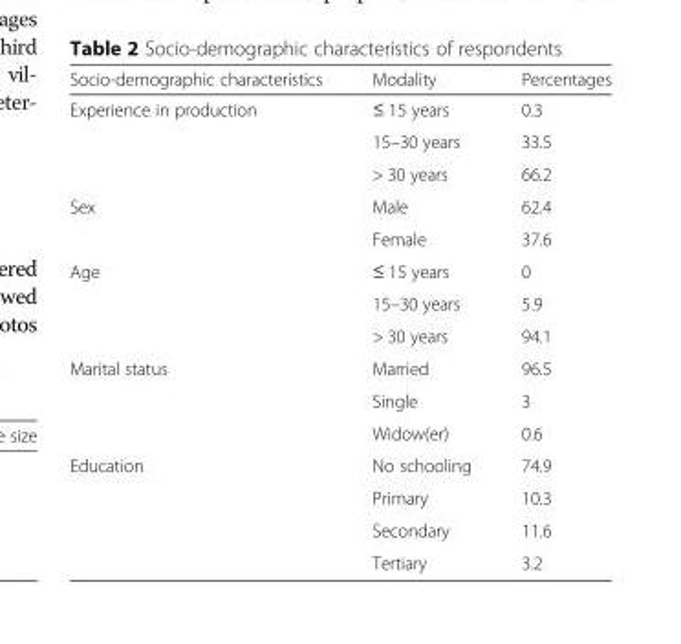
<table><thead><tr><td>Socio-demographic characteristics</td><td>Modality</td><td>Percentages</td></tr></thead><tbody><tr><td rowspan="3">Experience in production</td><td>≤ 15 years</td><td>0.3</td></tr><tr><td>15–30 years</td><td>33.5</td></tr><tr><td>&gt; 30 years</td><td>66.2</td></tr><tr><td rowspan="2">Sex</td><td>Male</td><td>62.4</td></tr><tr><td>Female</td><td>37.6</td></tr><tr><td rowspan="3">Age</td><td>≤ 15 years</td><td>0</td></tr><tr><td>15–30 years</td><td>5.9</td></tr><tr><td>&gt; 30 years</td><td>94.1</td></tr><tr><td rowspan="3">Marital status</td><td>Married</td><td>96.5</td></tr><tr><td>Single</td><td>3</td></tr><tr><td>Widow(er)</td><td>0.6</td></tr><tr><td rowspan="4">Education</td><td>No schooling</td><td>74.9</td></tr><tr><td>Primary</td><td>10.3</td></tr><tr><td>Secondary</td><td>11.6</td></tr><tr><td>Tertiary</td><td>3.2</td></tr></tbody></table>